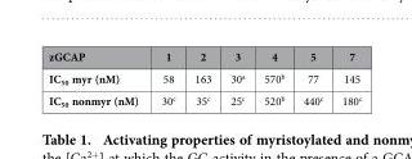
<table><thead><tr><td>zGCAP</td><td>1</td><td>2</td><td>3</td><td>4</td><td>5</td><td>7</td></tr></thead><tbody><tr><td>IC<sub>50</sub> myr (nM)</td><td>58</td><td>163</td><td>30<sup>a</sup></td><td>570<sup>b</sup></td><td>77</td><td>145</td></tr><tr><td>IC<sub>50</sub> nonmyr (nM)</td><td>30<sup>c</sup></td><td>35<sup>c</sup></td><td>25<sup>c</sup></td><td>520<sup>b</sup></td><td>440<sup>c</sup></td><td>180<sup>c</sup></td></tr></tbody></table>